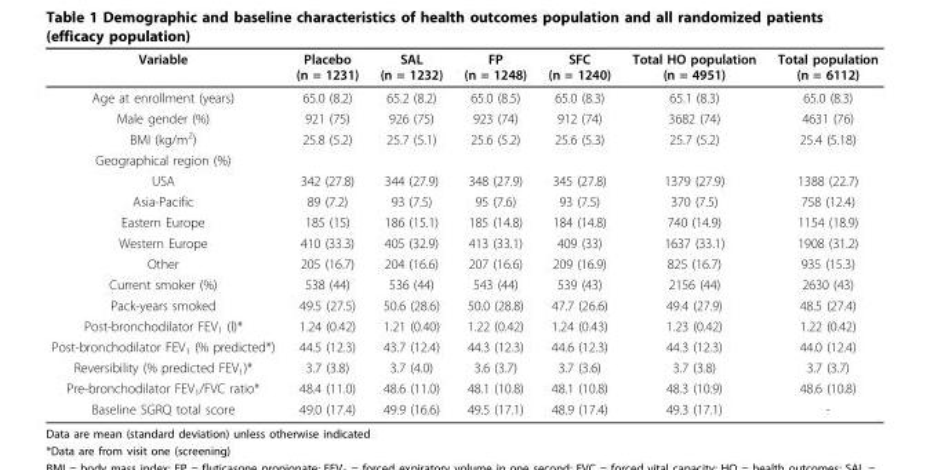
<table><thead><tr><td>Variable</td><td>Placebo (n = 1231)</td><td>SAL (n = 1232)</td><td>FP (n = 1248)</td><td>SFC (n = 1240)</td><td>Total HO population (n = 4951)</td><td>Total population (n = 6112)</td></tr></thead><tbody><tr><td>Age at enrollment (years)</td><td>65.0 (8.2)</td><td>65.2 (8.2)</td><td>65.0 (8.5)</td><td>65.0 (8.3)</td><td>65.1 (8.3)</td><td>65.0 (8.3)</td></tr><tr><td>Male gender (%)</td><td>921 (75)</td><td>926 (75)</td><td>923 (74)</td><td>912 (74)</td><td>3682 (74)</td><td>4631 (76)</td></tr><tr><td>BMI (kg/m<sup>2</sup>)</td><td>25.8 (5.2)</td><td>25.7 (5.1)</td><td>25.6 (5.2)</td><td>25.6 (5.3)</td><td>25.7 (5.2)</td><td>25.4 (5.18)</td></tr><tr><td colspan="7">Geographical region (%)</td></tr><tr><td>USA</td><td>342 (27.8)</td><td>344 (27.9)</td><td>348 (27.9)</td><td>345 (27.8)</td><td>1379 (27.9)</td><td>1388 (22.7)</td></tr><tr><td>Asia-Pacific</td><td>89 (7.2)</td><td>93 (7.5)</td><td>95 (7.6)</td><td>93 (7.5)</td><td>370 (7.5)</td><td>758 (12.4)</td></tr><tr><td>Eastern Europe</td><td>185 (15)</td><td>186 (15.1)</td><td>185 (14.8)</td><td>184 (14.8)</td><td>740 (14.9)</td><td>1154 (18.9)</td></tr><tr><td>Western Europe</td><td>410 (33.3)</td><td>405 (32.9)</td><td>413 (33.1)</td><td>409 (33)</td><td>1637 (33.1)</td><td>1908 (31.2)</td></tr><tr><td>Other</td><td>205 (16.7)</td><td>204 (16.6)</td><td>207 (16.6)</td><td>209 (16.9)</td><td>825 (16.7)</td><td>935 (15.3)</td></tr><tr><td>Current smoker (%)</td><td>538 (44)</td><td>536 (44)</td><td>543 (44)</td><td>539 (43)</td><td>2156 (44)</td><td>2630 (43)</td></tr><tr><td>Pack-years smoked</td><td>49.5 (27.5)</td><td>50.6 (28.6)</td><td>50.0 (28.8)</td><td>47.7 (26.6)</td><td>49.4 (27.9)</td><td>48.5 (27.4)</td></tr><tr><td>Post-bronchodilator FEV<sub>1</sub> (l)*</td><td>1.24 (0.42)</td><td>1.21 (0.40)</td><td>1.22 (0.42)</td><td>1.24 (0.43)</td><td>1.23 (0.42)</td><td>1.22 (0.42)</td></tr><tr><td>Post-bronchodilator FEV<sub>1</sub> (% predicted*)</td><td>44.5 (12.3)</td><td>43.7 (12.4)</td><td>44.3 (12.3)</td><td>44.6 (12.3)</td><td>44.3 (12.3)</td><td>44.0 (12.4)</td></tr><tr><td>Reversibility (% predicted FEV<sub>1</sub>)*</td><td>3.7 (3.8)</td><td>3.7 (4.0)</td><td>3.6 (3.7)</td><td>3.7 (3.6)</td><td>3.7 (3.8)</td><td>3.7 (3.7)</td></tr><tr><td>Pre-bronchodilator FEV<sub>1</sub>/FVC ratio*</td><td>48.4 (11.0)</td><td>48.6 (11.0)</td><td>48.1 (10.8)</td><td>48.1 (10.8)</td><td>48.3 (10.9)</td><td>48.6 (10.8)</td></tr><tr><td>Baseline SGRQ total score</td><td>49.0 (17.4)</td><td>49.9 (16.6)</td><td>49.5 (17.1)</td><td>48.9 (17.4)</td><td>49.3 (17.1)</td><td>-</td></tr></tbody></table>